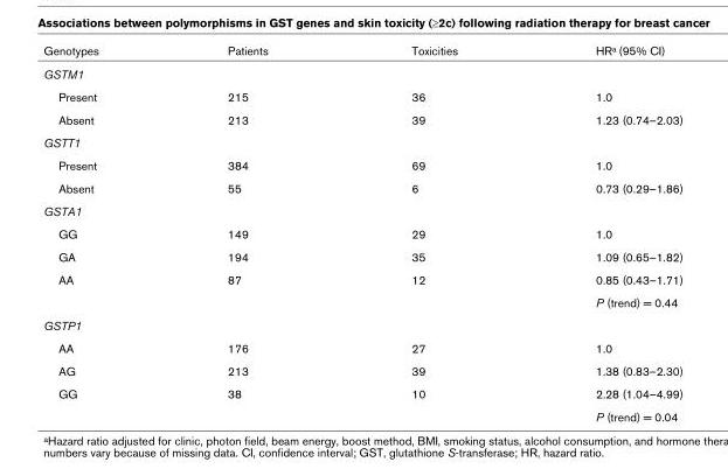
<table><thead><tr><td>Genotypes</td><td>Patients</td><td>Toxicities</td><td>HRa (95% CI)</td></tr></thead><tbody><tr><td colspan="4">GSTM1</td></tr><tr><td>Present</td><td>215</td><td>36</td><td>1.0</td></tr><tr><td>Absent</td><td>213</td><td>39</td><td>1.23 (0.74–2.03)</td></tr><tr><td colspan="4">GSTT1</td></tr><tr><td>Present</td><td>384</td><td>69</td><td>1.0</td></tr><tr><td>Absent</td><td>55</td><td>6</td><td>0.73 (0.29–1.86)</td></tr><tr><td colspan="4">GSTA1</td></tr><tr><td>GG</td><td>149</td><td>29</td><td>1.0</td></tr><tr><td>GA</td><td>194</td><td>35</td><td>1.09 (0.65–1.82)</td></tr><tr><td rowspan="2">AA</td><td>87</td><td>12</td><td>0.85 (0.43–1.71)</td></tr><tr><td></td><td></td><td>P (trend) = 0.44</td></tr><tr><td colspan="4">GSTP1</td></tr><tr><td>AA</td><td>176</td><td>27</td><td>1.0</td></tr><tr><td>AG</td><td>213</td><td>39</td><td>1.38 (0.83–2.30)</td></tr><tr><td rowspan="2">GG</td><td>38</td><td>10</td><td>2.28 (1.04–4.99)</td></tr><tr><td></td><td></td><td>P (trend) = 0.04</td></tr></tbody></table>